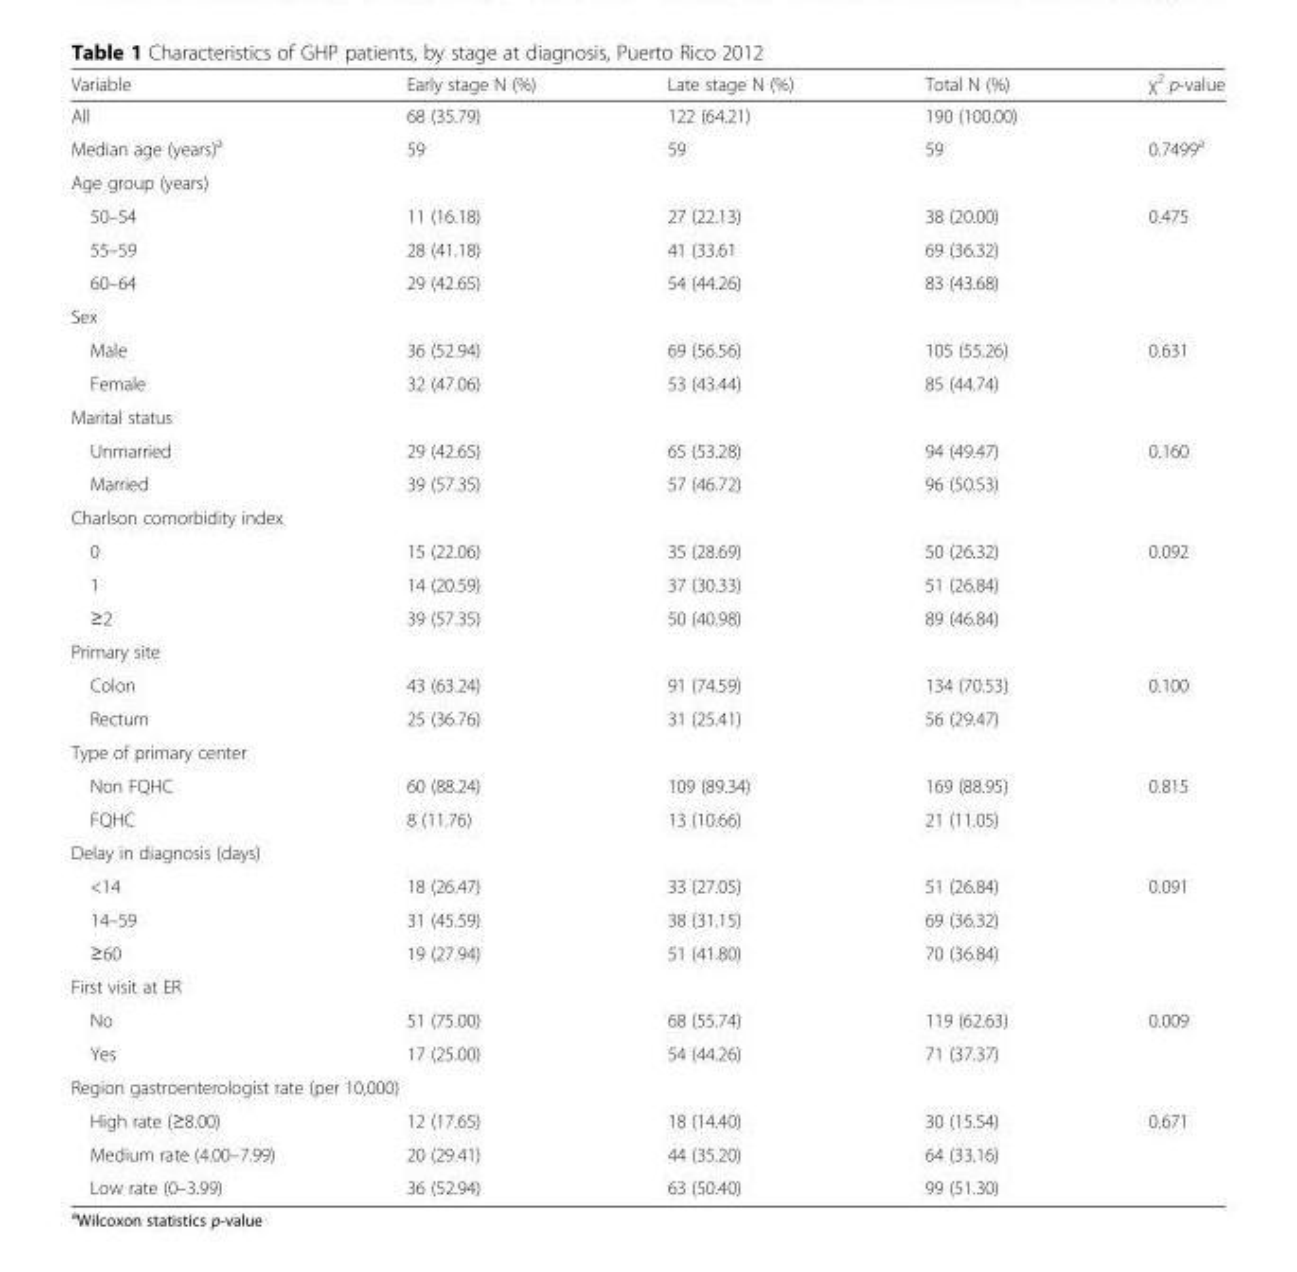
<table><thead><tr><td>Variable</td><td>Early stage N (%)</td><td>Late stage N (%)</td><td>Total N (%)</td><td>χ<sup>2</sup> p-value</td></tr></thead><tbody><tr><td>All</td><td>68 (35.79)</td><td>122 (64.21)</td><td>190 (100.00)</td><td></td></tr><tr><td>Median age (years)<sup>a</sup></td><td>59</td><td>59</td><td>59</td><td>0.7499<sup>a</sup></td></tr><tr><td colspan="5">Age group (years)</td></tr><tr><td>50–54</td><td>11 (16.18)</td><td>27 (22.13)</td><td>38 (20.00)</td><td rowspan="3">0.475</td></tr><tr><td>55–59</td><td>28 (41.18)</td><td>41 (33.61</td><td>69 (36.32)</td></tr><tr><td>60–64</td><td>29 (42.65)</td><td>54 (44.26)</td><td>83 (43.68)</td></tr><tr><td colspan="5">Sex</td></tr><tr><td>Male</td><td>36 (52.94)</td><td>69 (56.56)</td><td>105 (55.26)</td><td rowspan="2">0.631</td></tr><tr><td>Female</td><td>32 (47.06)</td><td>53 (43.44)</td><td>85 (44.74)</td></tr><tr><td colspan="5">Marital status</td></tr><tr><td>Unmarried</td><td>29 (42.65)</td><td>65 (53.28)</td><td>94 (49.47)</td><td rowspan="2">0.160</td></tr><tr><td>Married</td><td>39 (57.35)</td><td>57 (46.72)</td><td>96 (50.53)</td></tr><tr><td colspan="5">Charlson comorbidity index</td></tr><tr><td>0</td><td>15 (22.06)</td><td>35 (28.69)</td><td>50 (26.32)</td><td rowspan="3">0.092</td></tr><tr><td>1</td><td>14 (20.59)</td><td>37 (30.33)</td><td>51 (26.84)</td></tr><tr><td>≥2</td><td>39 (57.35)</td><td>50 (40.98)</td><td>89 (46.84)</td></tr><tr><td colspan="5">Primary site</td></tr><tr><td>Colon</td><td>43 (63.24)</td><td>91 (74.59)</td><td>134 (70.53)</td><td rowspan="2">0.100</td></tr><tr><td>Rectum</td><td>25 (36.76)</td><td>31 (25.41)</td><td>56 (29.47)</td></tr><tr><td colspan="5">Type of primary center</td></tr><tr><td>Non FQHC</td><td>60 (88.24)</td><td>109 (89.34)</td><td>169 (88.95)</td><td rowspan="2">0.815</td></tr><tr><td>FQHC</td><td>8 (11.76)</td><td>13 (10.66)</td><td>21 (11.05)</td></tr><tr><td colspan="5">Delay in diagnosis (days)</td></tr><tr><td>&lt;14</td><td>18 (26.47)</td><td>33 (27.05)</td><td>51 (26.84)</td><td rowspan="3">0.091</td></tr><tr><td>14–59</td><td>31 (45.59)</td><td>38 (31.15)</td><td>69 (36.32)</td></tr><tr><td>≥60</td><td>19 (27.94)</td><td>51 (41.80)</td><td>70 (36.84)</td></tr><tr><td colspan="5">First visit at ER</td></tr><tr><td>No</td><td>51 (75.00)</td><td>68 (55.74)</td><td>119 (62.63)</td><td rowspan="2">0.009</td></tr><tr><td>Yes</td><td>17 (25.00)</td><td>54 (44.26)</td><td>71 (37.37)</td></tr><tr><td colspan="5">Region gastroenterologist rate (per 10,000)</td></tr><tr><td>High rate (≥8.00)</td><td>12 (17.65)</td><td>18 (14.40)</td><td>30 (15.54)</td><td rowspan="3">0.671</td></tr><tr><td>Medium rate (4.00–7.99)</td><td>20 (29.41)</td><td>44 (35.20)</td><td>64 (33.16)</td></tr><tr><td>Low rate (0–3.99)</td><td>36 (52.94)</td><td>63 (50.40)</td><td>99 (51.30)</td></tr></tbody></table>